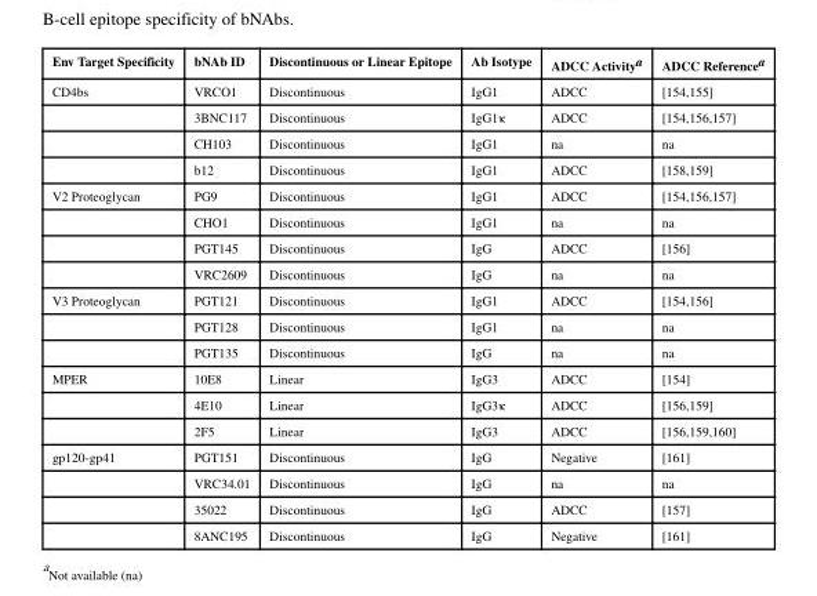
<table><thead><tr><td>Env Target Specificity</td><td>bNAb ID</td><td>Discontinuous or Linear Epitope</td><td>Ab Isotype</td><td>ADCC Activity<sup>a</sup></td><td>ADCC Reference<sup>a</sup></td></tr></thead><tbody><tr><td rowspan="4">CD4bs</td><td>VRCO1</td><td>Discontinuous</td><td>IgG1</td><td>ADCC</td><td>[154,155]</td></tr><tr><td>3BNC117</td><td>Discontinuous</td><td>IgG1κ</td><td>ADCC</td><td>[154,156,157]</td></tr><tr><td>CH103</td><td>Discontinuous</td><td>IgG1</td><td>na</td><td>na</td></tr><tr><td>b12</td><td>Discontinuous</td><td>IgG1</td><td>ADCC</td><td>[158,159]</td></tr><tr><td rowspan="4">V2 Proteoglycan</td><td>PG9</td><td>Discontinuous</td><td>IgG1</td><td>ADCC</td><td>[154,156,157]</td></tr><tr><td>CHO1</td><td>Discontinuous</td><td>IgG1</td><td>na</td><td>na</td></tr><tr><td>PGT145</td><td>Discontinuous</td><td>IgG</td><td>ADCC</td><td>[156]</td></tr><tr><td>VRC2609</td><td>Discontinuous</td><td>IgG</td><td>na</td><td>na</td></tr><tr><td rowspan="3">V3 Proteoglycan</td><td>PGT121</td><td>Discontinuous</td><td>IgG1</td><td>ADCC</td><td>[154,156]</td></tr><tr><td>PGT128</td><td>Discontinuous</td><td>IgG1</td><td>na</td><td>na</td></tr><tr><td>PGT135</td><td>Discontinuous</td><td>IgG</td><td>na</td><td>na</td></tr><tr><td rowspan="3">MPER</td><td>10E8</td><td>Linear</td><td>IgG3</td><td>ADCC</td><td>[154]</td></tr><tr><td>4E10</td><td>Linear</td><td>IgG3κ</td><td>ADCC</td><td>[156,159]</td></tr><tr><td>2F5</td><td>Linear</td><td>IgG3</td><td>ADCC</td><td>[156,159,160]</td></tr><tr><td rowspan="4">gp120-gp41</td><td>PGT151</td><td>Discontinuous</td><td>IgG</td><td>Negative</td><td>[161]</td></tr><tr><td>VRC34.01</td><td>Discontinuous</td><td>IgG</td><td>na</td><td>na</td></tr><tr><td>35022</td><td>Discontinuous</td><td>IgG</td><td>ADCC</td><td>[157]</td></tr><tr><td>8ANC195</td><td>Discontinuous</td><td>IgG</td><td>Negative</td><td>[161]</td></tr></tbody></table>